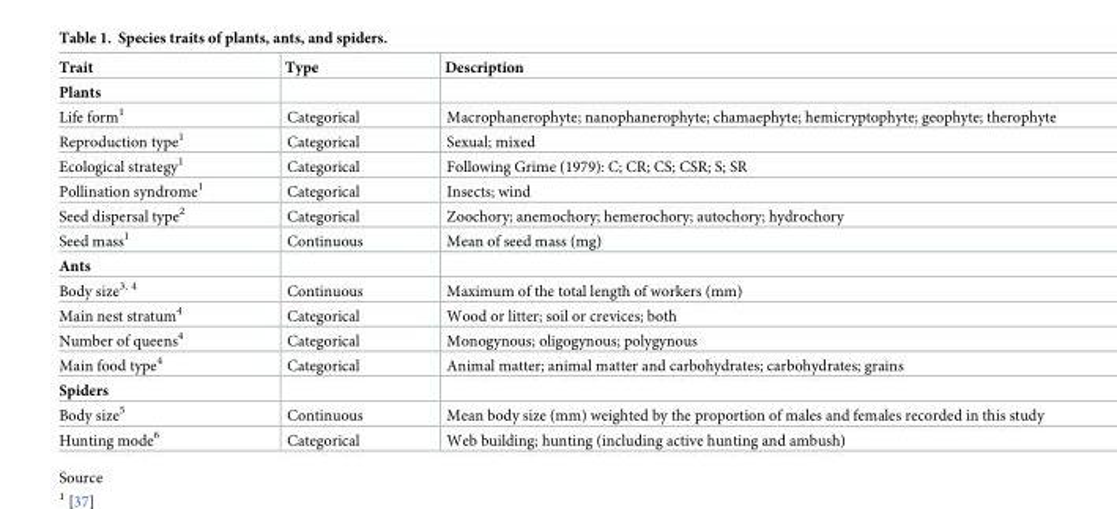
<table><thead><tr><td>Trait</td><td>Type</td><td>Description</td></tr></thead><tbody><tr><td colspan="3">Plants</td></tr><tr><td>Life form<sup>1</sup></td><td>Categorical</td><td>Macrophanerophyte; nanophanerophyte; chamaephyte; hemicryptophyte; geophyte; therophyte</td></tr><tr><td>Reproduction type<sup>1</sup></td><td>Categorical</td><td>Sexual; mixed</td></tr><tr><td>Ecological strategy<sup>1</sup></td><td>Categorical</td><td>Following Grime (1979): C; CR; CS; CSR; S; SR</td></tr><tr><td>Pollination syndrome<sup>1</sup></td><td>Categorical</td><td>Insects; wind</td></tr><tr><td>Seed dispersal type<sup>2</sup></td><td>Categorical</td><td>Zoochory; anemochory; hemerochory; autochory; hydrochory</td></tr><tr><td>Seed mass<sup>1</sup></td><td>Continuous</td><td>Mean of seed mass (mg)</td></tr><tr><td colspan="3">Ants</td></tr><tr><td>Body size<sup>3, 4</sup></td><td>Continuous</td><td>Maximum of the total length of workers (mm)</td></tr><tr><td>Main nest stratum<sup>4</sup></td><td>Categorical</td><td>Wood or litter; soil or crevices; both</td></tr><tr><td>Number of queens<sup>4</sup></td><td>Categorical</td><td>Monogynous; oligogynous; polygynous</td></tr><tr><td>Main food type<sup>4</sup></td><td>Categorical</td><td>Animal matter; animal matter and carbohydrates; carbohydrates; grains</td></tr><tr><td colspan="3">Spiders</td></tr><tr><td>Body size<sup>5</sup></td><td>Continuous</td><td>Mean body size (mm) weighted by the proportion of males and females recorded in this study</td></tr><tr><td>Hunting mode<sup>6</sup></td><td>Categorical</td><td>Web building; hunting (including active hunting and ambush)</td></tr></tbody></table>